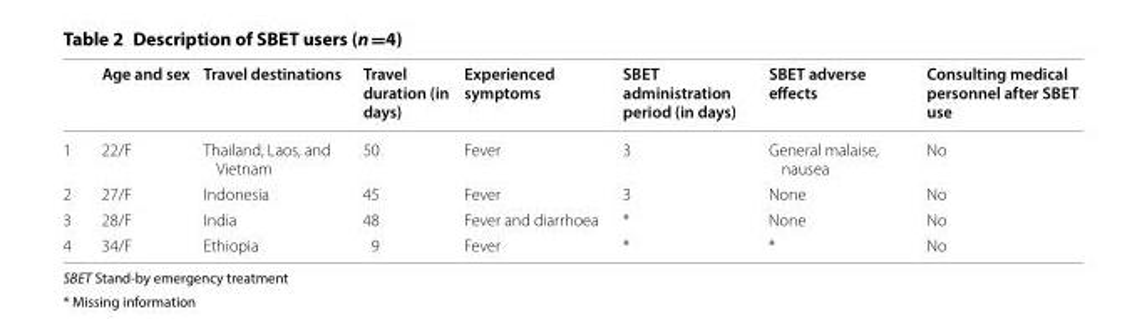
<table><thead><tr><td></td><td>Age and sex</td><td>Travel destinations</td><td>Travel duration (in days)</td><td>Experienced symptoms</td><td>SBET administration period (in days)</td><td>SBET adverse effects</td><td>Consulting medical personnel after SBET use</td></tr></thead><tbody><tr><td>1</td><td>22/F</td><td>Thailand, Laos, and Vietnam</td><td>50</td><td>Fever</td><td>3</td><td>General malaise, nausea</td><td>No</td></tr><tr><td>2</td><td>27/F</td><td>Indonesia</td><td>45</td><td>Fever</td><td>3</td><td>None</td><td>No</td></tr><tr><td>3</td><td>28/F</td><td>India</td><td>48</td><td>Fever and diarrhoea</td><td>*</td><td>None</td><td>No</td></tr><tr><td>4</td><td>34/F</td><td>Ethiopia</td><td>9</td><td>Fever</td><td>*</td><td>*</td><td>No</td></tr></tbody></table>